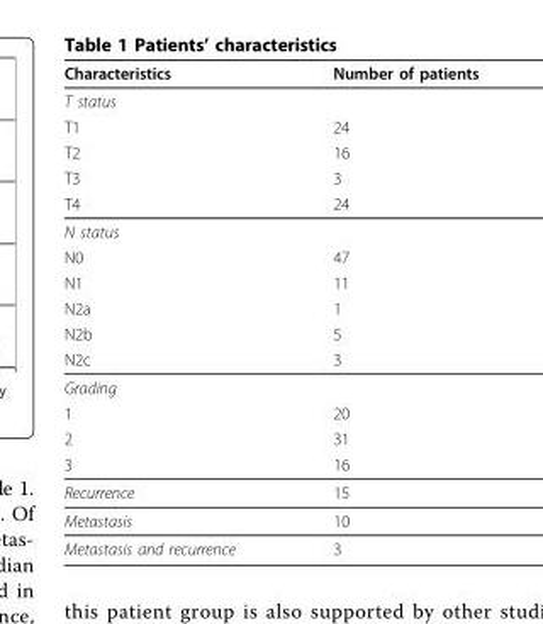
<table><thead><tr><td>Characteristics</td><td>Number of patients</td></tr></thead><tbody><tr><td colspan="2">T status</td></tr><tr><td>T1</td><td>24</td></tr><tr><td>T2</td><td>16</td></tr><tr><td>T3</td><td>3</td></tr><tr><td>T4</td><td>24</td></tr><tr><td colspan="2">N status</td></tr><tr><td>N0</td><td>47</td></tr><tr><td>N1</td><td>11</td></tr><tr><td>N2a</td><td>1</td></tr><tr><td>N2b</td><td>5</td></tr><tr><td>N2c</td><td>3</td></tr><tr><td colspan="2">Grading</td></tr><tr><td>1</td><td>20</td></tr><tr><td>2</td><td>31</td></tr><tr><td>3</td><td>16</td></tr><tr><td>Recurrence</td><td>15</td></tr><tr><td>Metastasis</td><td>10</td></tr><tr><td>Metastasis and recurrence</td><td>3</td></tr></tbody></table>